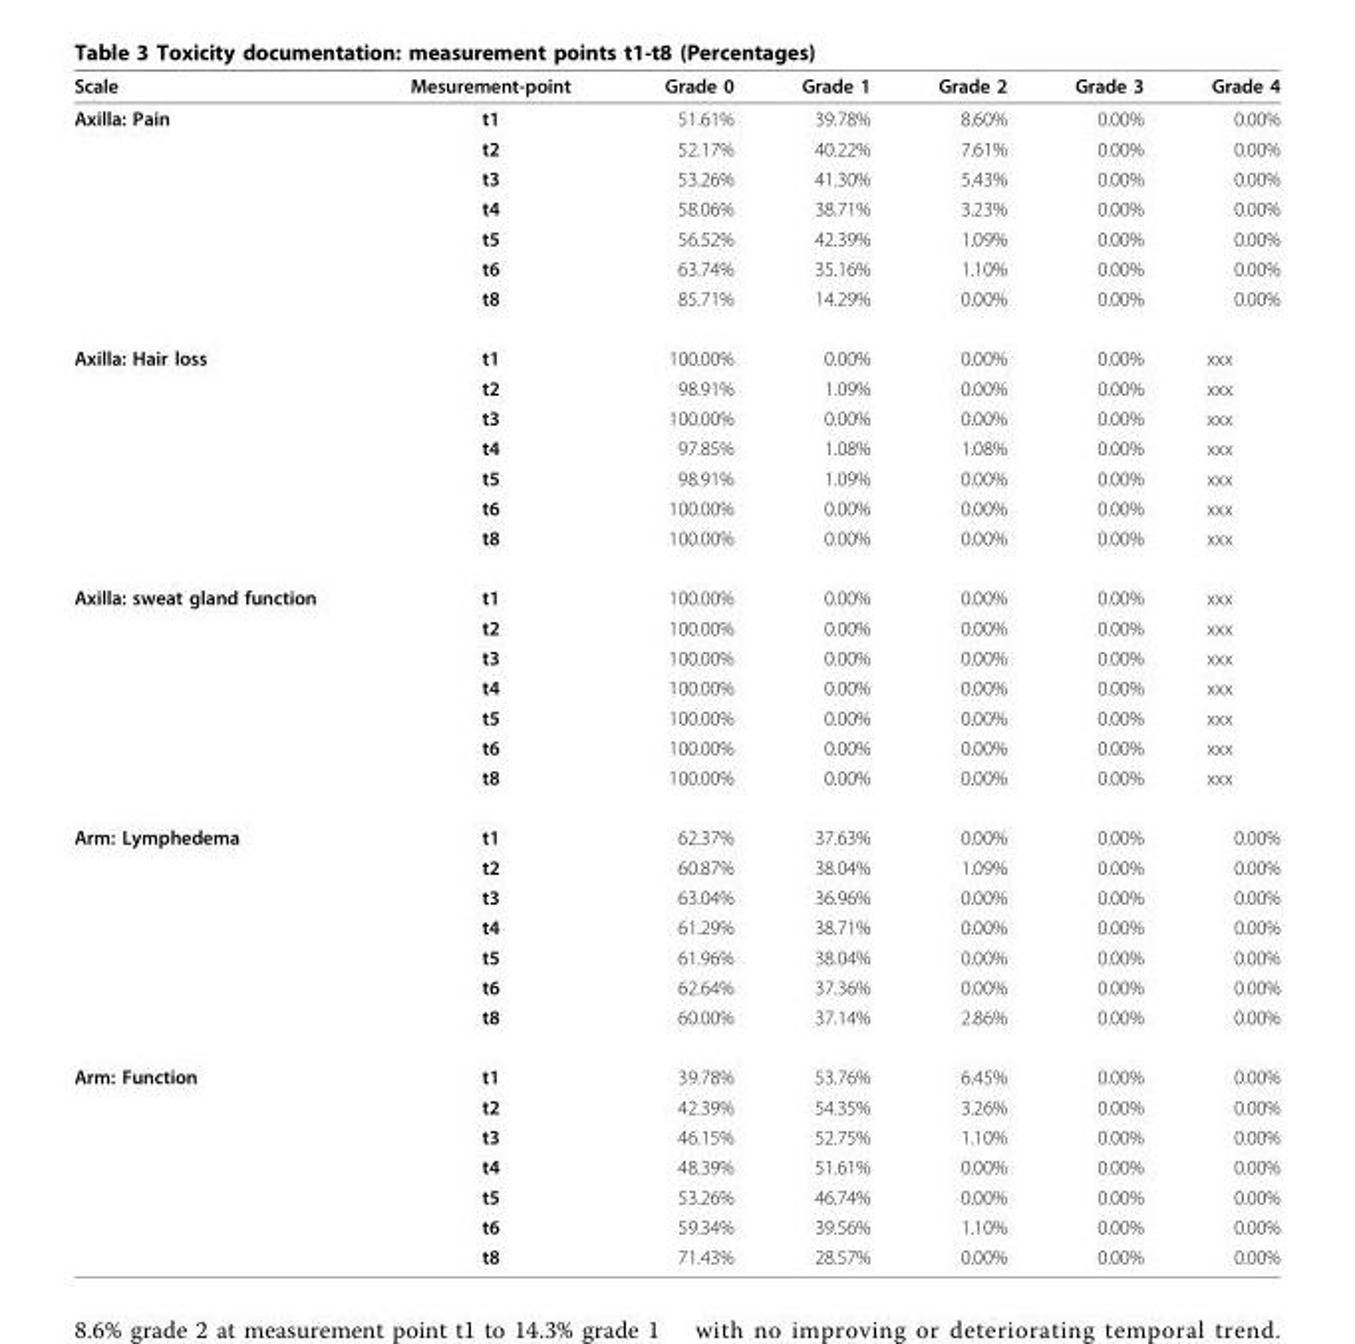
<table><thead><tr><td>Scale</td><td>Mesurement-point</td><td>Grade 0</td><td>Grade 1</td><td>Grade 2</td><td>Grade 3</td><td>Grade 4</td></tr></thead><tbody><tr><td rowspan="7">Axilla: Pain</td><td>t1</td><td>51.61%</td><td>39.78%</td><td>8.60%</td><td>0.00%</td><td>0.00%</td></tr><tr><td>t2</td><td>52.17%</td><td>40.22%</td><td>7.61%</td><td>0.00%</td><td>0.00%</td></tr><tr><td>t3</td><td>53.26%</td><td>41.30%</td><td>5.43%</td><td>0.00%</td><td>0.00%</td></tr><tr><td>t4</td><td>58.06%</td><td>38.71%</td><td>3.23%</td><td>0.00%</td><td>0.00%</td></tr><tr><td>t5</td><td>56.52%</td><td>42.39%</td><td>1.09%</td><td>0.00%</td><td>0.00%</td></tr><tr><td>t6</td><td>63.74%</td><td>35.16%</td><td>1.10%</td><td>0.00%</td><td>0.00%</td></tr><tr><td>t8</td><td>85.71%</td><td>14.29%</td><td>0.00%</td><td>0.00%</td><td>0.00%</td></tr><tr><td rowspan="7">Axilla: Hair loss</td><td>t1</td><td>100.00%</td><td>0.00%</td><td>0.00%</td><td>0.00%</td><td>xxx</td></tr><tr><td>t2</td><td>98.91%</td><td>1.09%</td><td>0.00%</td><td>0.00%</td><td>xxx</td></tr><tr><td>t3</td><td>100.00%</td><td>0.00%</td><td>0.00%</td><td>0.00%</td><td>xxx</td></tr><tr><td>t4</td><td>97.85%</td><td>1.08%</td><td>1.08%</td><td>0.00%</td><td>xxx</td></tr><tr><td>t5</td><td>98.91%</td><td>1.09%</td><td>0.00%</td><td>0.00%</td><td>xxx</td></tr><tr><td>t6</td><td>100.00%</td><td>0.00%</td><td>0.00%</td><td>0.00%</td><td>xxx</td></tr><tr><td>t8</td><td>100.00%</td><td>0.00%</td><td>0.00%</td><td>0.00%</td><td>xxx</td></tr><tr><td rowspan="7">Axilla: sweat gland function</td><td>t1</td><td>100.00%</td><td>0.00%</td><td>0.00%</td><td>0.00%</td><td>xxx</td></tr><tr><td>t2</td><td>100.00%</td><td>0.00%</td><td>0.00%</td><td>0.00%</td><td>xxx</td></tr><tr><td>t3</td><td>100.00%</td><td>0.00%</td><td>0.00%</td><td>0.00%</td><td>xxx</td></tr><tr><td>t4</td><td>100.00%</td><td>0.00%</td><td>0.00%</td><td>0.00%</td><td>xxx</td></tr><tr><td>t5</td><td>100.00%</td><td>0.00%</td><td>0.00%</td><td>0.00%</td><td>xxx</td></tr><tr><td>t6</td><td>100.00%</td><td>0.00%</td><td>0.00%</td><td>0.00%</td><td>xxx</td></tr><tr><td>t8</td><td>100.00%</td><td>0.00%</td><td>0.00%</td><td>0.00%</td><td>xxx</td></tr><tr><td rowspan="7">Arm: Lymphedema</td><td>t1</td><td>62.37%</td><td>37.63%</td><td>0.00%</td><td>0.00%</td><td>0.00%</td></tr><tr><td>t2</td><td>60.87%</td><td>38.04%</td><td>1.09%</td><td>0.00%</td><td>0.00%</td></tr><tr><td>t3</td><td>63.04%</td><td>36.96%</td><td>0.00%</td><td>0.00%</td><td>0.00%</td></tr><tr><td>t4</td><td>61.29%</td><td>38.71%</td><td>0.00%</td><td>0.00%</td><td>0.00%</td></tr><tr><td>t5</td><td>61.96%</td><td>38.04%</td><td>0.00%</td><td>0.00%</td><td>0.00%</td></tr><tr><td>t6</td><td>62.64%</td><td>37.36%</td><td>0.00%</td><td>0.00%</td><td>0.00%</td></tr><tr><td>t8</td><td>60.00%</td><td>37.14%</td><td>2.86%</td><td>0.00%</td><td>0.00%</td></tr><tr><td rowspan="7">Arm: Function</td><td>t1</td><td>39.78%</td><td>53.76%</td><td>6.45%</td><td>0.00%</td><td>0.00%</td></tr><tr><td>t2</td><td>42.39%</td><td>54.35%</td><td>3.26%</td><td>0.00%</td><td>0.00%</td></tr><tr><td>t3</td><td>46.15%</td><td>52.75%</td><td>1.10%</td><td>0.00%</td><td>0.00%</td></tr><tr><td>t4</td><td>48.39%</td><td>51.61%</td><td>0.00%</td><td>0.00%</td><td>0.00%</td></tr><tr><td>t5</td><td>53.26%</td><td>46.74%</td><td>0.00%</td><td>0.00%</td><td>0.00%</td></tr><tr><td>t6</td><td>59.34%</td><td>39.56%</td><td>1.10%</td><td>0.00%</td><td>0.00%</td></tr><tr><td>t8</td><td>71.43%</td><td>28.57%</td><td>0.00%</td><td>0.00%</td><td>0.00%</td></tr></tbody></table>